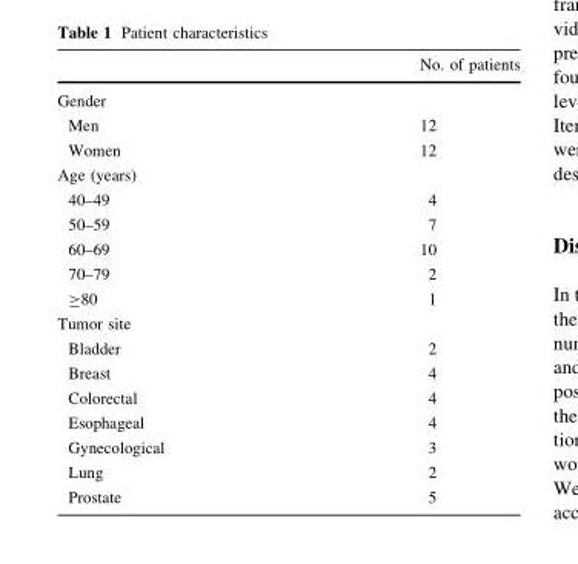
<table><thead><tr><td></td><td>No. of patients</td></tr></thead><tbody><tr><td colspan="2">Gender</td></tr><tr><td>Men</td><td>12</td></tr><tr><td>Women</td><td>12</td></tr><tr><td colspan="2">Age (years)</td></tr><tr><td>40–49</td><td>4</td></tr><tr><td>50–59</td><td>7</td></tr><tr><td>60–69</td><td>10</td></tr><tr><td>70–79</td><td>2</td></tr><tr><td>≥80</td><td>1</td></tr><tr><td colspan="2">Tumor site</td></tr><tr><td>Bladder</td><td>2</td></tr><tr><td>Breast</td><td>4</td></tr><tr><td>Colorectal</td><td>4</td></tr><tr><td>Esophageal</td><td>4</td></tr><tr><td>Gynecological</td><td>3</td></tr><tr><td>Lung</td><td>2</td></tr><tr><td>Prostate</td><td>5</td></tr></tbody></table>